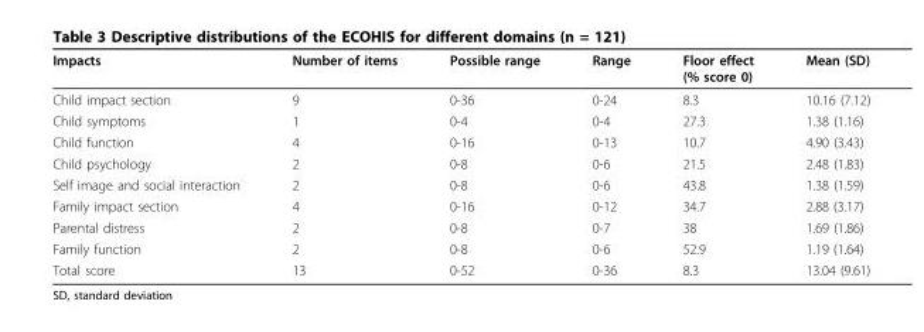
<table><thead><tr><td>Impacts</td><td>Number of items</td><td>Possible range</td><td>Range</td><td>Floor effect (% score 0)</td><td>Mean (SD)</td></tr></thead><tbody><tr><td>Child impact section</td><td>9</td><td>0-36</td><td>0-24</td><td>8.3</td><td>10.16 (7.12)</td></tr><tr><td>Child symptoms</td><td>1</td><td>0-4</td><td>0-4</td><td>27.3</td><td>1.38 (1.16)</td></tr><tr><td>Child function</td><td>4</td><td>0-16</td><td>0-13</td><td>10.7</td><td>4.90 (3.43)</td></tr><tr><td>Child psychology</td><td>2</td><td>0-8</td><td>0-6</td><td>21.5</td><td>2.48 (1.83)</td></tr><tr><td>Self image and social interaction</td><td>2</td><td>0-8</td><td>0-6</td><td>43.8</td><td>1.38 (1.59)</td></tr><tr><td>Family impact section</td><td>4</td><td>0-16</td><td>0-12</td><td>34.7</td><td>2.88 (3.17)</td></tr><tr><td>Parental distress</td><td>2</td><td>0-8</td><td>0-7</td><td>38</td><td>1.69 (1.86)</td></tr><tr><td>Family function</td><td>2</td><td>0-8</td><td>0-6</td><td>52.9</td><td>1.19 (1.64)</td></tr><tr><td>Total score</td><td>13</td><td>0-52</td><td>0-36</td><td>8.3</td><td>13.04 (9.61)</td></tr></tbody></table>